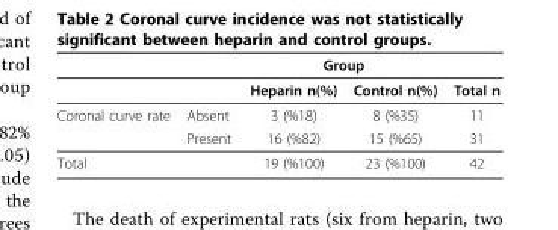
<table><thead><tr><td rowspan="2"></td><td rowspan="2"></td><td colspan="2">Group</td><td rowspan="2">Total n</td></tr><tr><td>Heparin n(%)</td><td>Control n(%)</td></tr></thead><tbody><tr><td rowspan="2">Coronal curve rate</td><td>Absent</td><td>3 (%18)</td><td>8 (%35)</td><td>11</td></tr><tr><td>Present</td><td>16 (%82)</td><td>15 (%65)</td><td>31</td></tr><tr><td colspan="2">Total</td><td>19 (%100)</td><td>23 (%100)</td><td>42</td></tr></tbody></table>